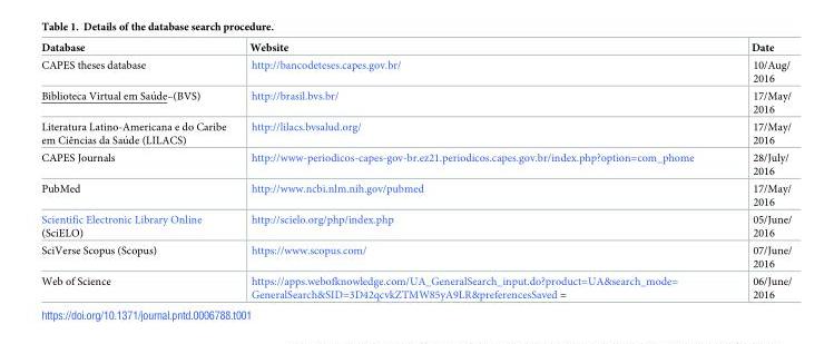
<table><thead><tr><td>Database</td><td>Website</td><td>Date</td></tr></thead><tbody><tr><td>CAPES theses database</td><td>http://bancodeteses.capes.gov.br/</td><td>10/Aug/ 2016</td></tr><tr><td>Biblioteca Virtual em Sau´de–(BVS)</td><td>http://brasil.bvs.br/</td><td>17/May/ 2016</td></tr><tr><td>Literatura Latino-Americana e do Caribe em Ciências da Sau´de (LILACS)</td><td>http://lilacs.bvsalud.org/</td><td>17/May/ 2016</td></tr><tr><td>CAPES Journals</td><td>http://www-periodicos-capes-gov-br.ez21.periodicos.capes.gov.br/index.php?option=com_phome</td><td>28/July/ 2016</td></tr><tr><td>PubMed</td><td>http://www.ncbi.nlm.nih.gov/pubmed</td><td>17/May/ 2016</td></tr><tr><td>Scientific Electronic Library Online (SciELO)</td><td>http://scielo.org/php/index.php</td><td>05/June/ 2016</td></tr><tr><td>SciVerse Scopus (Scopus)</td><td>https://www.scopus.com/</td><td>07/June/ 2016</td></tr><tr><td>Web of Science</td><td>https://apps.webofknowledge.com/UA_GeneralSearch_input.do?product=UA&amp;search_mode= GeneralSearch&amp;SID=3D42qcvkZTMW85yA9LR&amp;preferencesSaved =</td><td>06/June/ 2016</td></tr></tbody></table>